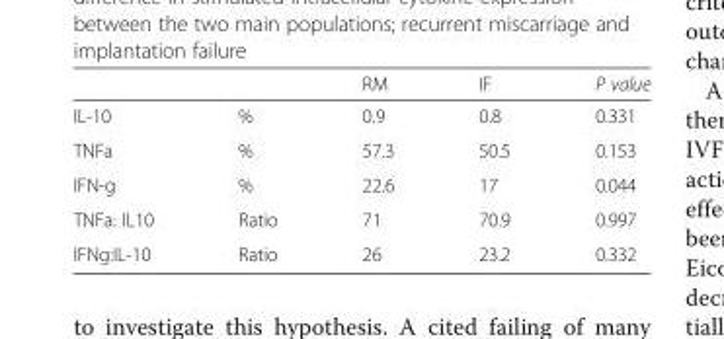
<table><thead><tr><td></td><td></td><td>RM</td><td>IF</td><td>P value</td></tr></thead><tbody><tr><td>IL-10</td><td>%</td><td>0.9</td><td>0.8</td><td>0.331</td></tr><tr><td>TNFa</td><td>%</td><td>57.3</td><td>50.5</td><td>0.153</td></tr><tr><td>IFN-g</td><td>%</td><td>22.6</td><td>17</td><td>0.044</td></tr><tr><td>TNFa: IL10</td><td>Ratio</td><td>71</td><td>70.9</td><td>0.997</td></tr><tr><td>IFNg:IL-10</td><td>Ratio</td><td>26</td><td>23.2</td><td>0.332</td></tr></tbody></table>